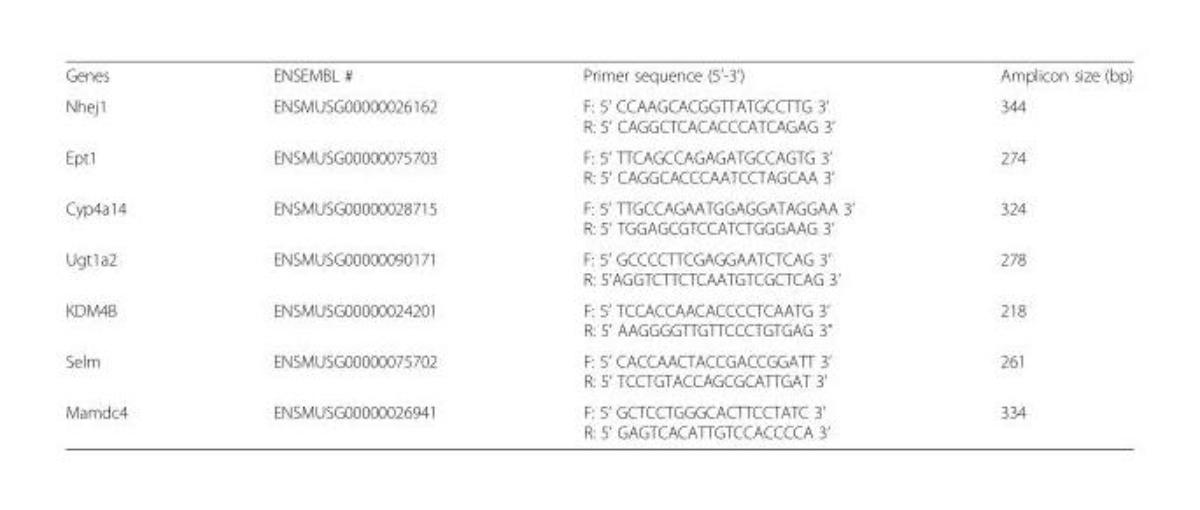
<table><tbody><tr><td>Genes</td><td>ENSEMBL #</td><td>Primer sequence (5’-3’)</td><td>Amplicon size (bp)</td></tr><tr><td>Nhej1</td><td>ENSMUSG00000026162</td><td>F: 5’ CCAAGCACGGTTATGCCTTG 3’ R: 5’ CAGGCTCACACCCATCAGAG 3’</td><td>344</td></tr><tr><td>Ept1</td><td>ENSMUSG00000075703</td><td>F: 5’ TTCAGCCAGAGATGCCAGTG 3’ R: 5’ CAGGCACCCAATCCTAGCAA 3’</td><td>274</td></tr><tr><td>Cyp4a14</td><td>ENSMUSG00000028715</td><td>F: 5’ TTGCCAGAATGGAGGATAGGAA 3’ R: 5’ TGGAGCGTCCATCTGGGAAG 3’</td><td>324</td></tr><tr><td>Ugt1a2</td><td>ENSMUSG00000090171</td><td>F: 5’ GCCCCTTCGAGGAATCTCAG 3’ R: 5’AGGTCTTCTCAATGTCGCTCAG 3’</td><td>278</td></tr><tr><td>KDM4B</td><td>ENSMUSG00000024201</td><td>F: 5’ TCCACCAACACCCCTCAATG 3’ R: 5’ AAGGGGTTGTTCCCTGTGAG 3”</td><td>218</td></tr><tr><td>Selm</td><td>ENSMUSG00000075702</td><td>F: 5’ CACCAACTACCGACCGGATT 3’ R: 5’ TCCTGTACCAGCGCATTGAT 3’</td><td>261</td></tr><tr><td>Mamdc4</td><td>ENSMUSG00000026941</td><td>F: 5’ GCTCCTGGGCACTTCCTATC 3’ R: 5’ GAGTCACATTGTCCACCCCA 3’</td><td>334</td></tr></tbody></table>